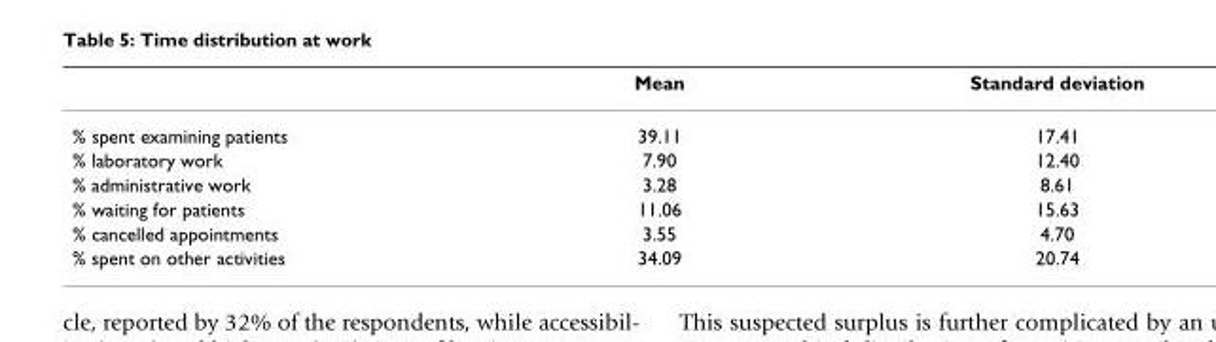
<table><thead><tr><td></td><td>Mean</td><td>Standard deviation</td></tr></thead><tbody><tr><td>% spent examining patients</td><td>39.11</td><td>17.41</td></tr><tr><td>% laboratory work</td><td>7.90</td><td>12.40</td></tr><tr><td>% administrative work</td><td>3.28</td><td>8.61</td></tr><tr><td>% waiting for patients</td><td>11.06</td><td>15.63</td></tr><tr><td>% cancelled appointments</td><td>3.55</td><td>4.70</td></tr><tr><td>% spent on other activities</td><td>34.09</td><td>20.74</td></tr></tbody></table>